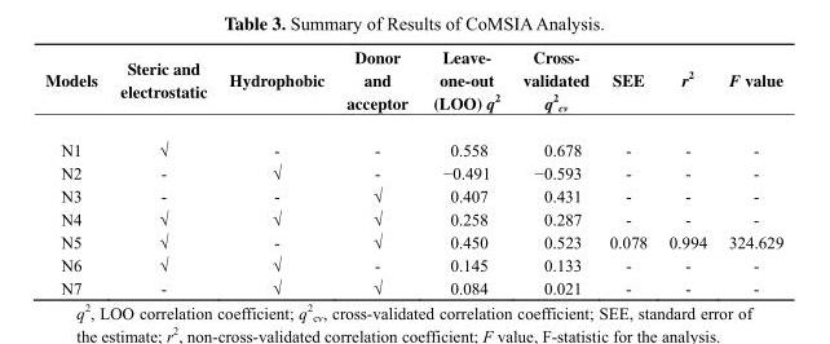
<table><thead><tr><td>Models</td><td>Steric and electrostatic</td><td>Hydrophobic</td><td>Donor and acceptor</td><td>Leave- one-out (LOO) q2</td><td>Cross- validated q2 cv</td><td>SEE</td><td>r<sup>2</sup></td><td>F value</td></tr></thead><tbody><tr><td>N1</td><td>√</td><td>-</td><td>-</td><td>0.558</td><td>0.678</td><td>-</td><td>-</td><td>-</td></tr><tr><td>N2</td><td>-</td><td>√</td><td>-</td><td>−0.491</td><td>−0.593</td><td>-</td><td>-</td><td>-</td></tr><tr><td>N3</td><td>-</td><td>-</td><td>√</td><td>0.407</td><td>0.431</td><td>-</td><td>-</td><td>-</td></tr><tr><td>N4</td><td>√</td><td>√</td><td>√</td><td>0.258</td><td>0.287</td><td>-</td><td>-</td><td>-</td></tr><tr><td>N5</td><td>√</td><td>-</td><td>√</td><td>0.450</td><td>0.523</td><td>0.078</td><td>0.994</td><td>324.629</td></tr><tr><td>N6</td><td>√</td><td>√</td><td>-</td><td>0.145</td><td>0.133</td><td>-</td><td>-</td><td>-</td></tr><tr><td>N7</td><td>-</td><td>√</td><td>√</td><td>0.084</td><td>0.021</td><td>-</td><td>-</td><td>-</td></tr></tbody></table>